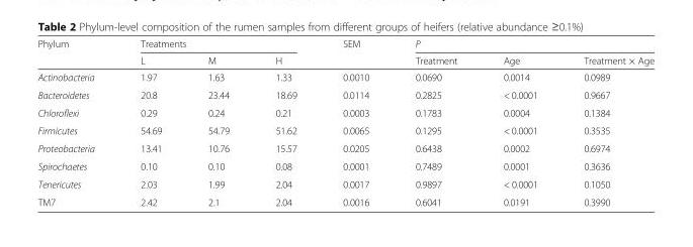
<table><thead><tr><td rowspan="2">Phylum</td><td colspan="3">Treatments</td><td rowspan="2">SEM</td><td colspan="3">P</td></tr><tr><td>L</td><td>M</td><td>H</td><td>Treatment</td><td>Age</td><td>Treatment × Age</td></tr></thead><tbody><tr><td>Actinobacteria</td><td>1.97</td><td>1.63</td><td>1.33</td><td>0.0010</td><td>0.0690</td><td>0.0014</td><td>0.0989</td></tr><tr><td>Bacteroidetes</td><td>20.8</td><td>23.44</td><td>18.69</td><td>0.0114</td><td>0.2825</td><td>&lt; 0.0001</td><td>0.9667</td></tr><tr><td>Chloroflexi</td><td>0.29</td><td>0.24</td><td>0.21</td><td>0.0003</td><td>0.1783</td><td>0.0004</td><td>0.1384</td></tr><tr><td>Firmicutes</td><td>54.69</td><td>54.79</td><td>51.62</td><td>0.0065</td><td>0.1295</td><td>&lt; 0.0001</td><td>0.3535</td></tr><tr><td>Proteobacteria</td><td>13.41</td><td>10.76</td><td>15.57</td><td>0.0205</td><td>0.6438</td><td>0.0002</td><td>0.6974</td></tr><tr><td>Spirochaetes</td><td>0.10</td><td>0.10</td><td>0.08</td><td>0.0001</td><td>0.7489</td><td>0.0001</td><td>0.3636</td></tr><tr><td>Tenericutes</td><td>2.03</td><td>1.99</td><td>2.04</td><td>0.0017</td><td>0.9897</td><td>&lt; 0.0001</td><td>0.1050</td></tr><tr><td>TM7</td><td>2.42</td><td>2.1</td><td>2.04</td><td>0.0016</td><td>0.6041</td><td>0.0191</td><td>0.3990</td></tr></tbody></table>